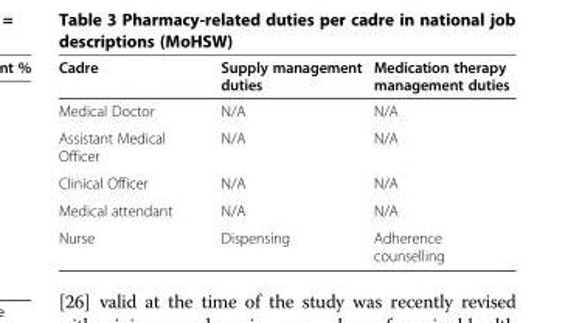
<table><thead><tr><td>Cadre</td><td>Supply management duties</td><td>Medication therapy management duties</td></tr></thead><tbody><tr><td>Medical Doctor</td><td>N/A</td><td>N/A</td></tr><tr><td>Assistant Medical Officer</td><td>N/A</td><td>N/A</td></tr><tr><td>Clinical Officer</td><td>N/A</td><td>N/A</td></tr><tr><td>Medical attendant</td><td>N/A</td><td>N/A</td></tr><tr><td>Nurse</td><td>Dispensing</td><td>Adherence counselling</td></tr></tbody></table>